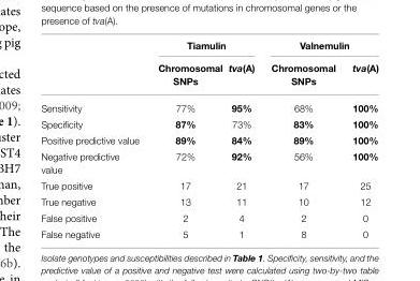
<table><thead><tr><td rowspan="2"></td><td colspan="2">Tiamulin</td><td colspan="2">Valnemulin</td></tr><tr><td>Chromosomal SNPs</td><td>tva(A)</td><td>Chromosomal SNPs</td><td>tva(A)</td></tr></thead><tbody><tr><td>Sensitivity</td><td>77%</td><td>95%</td><td>68%</td><td>100%</td></tr><tr><td>Specificity</td><td>87%</td><td>73%</td><td>83%</td><td>100%</td></tr><tr><td>Positive predictive value</td><td>89%</td><td>84%</td><td>89%</td><td>100%</td></tr><tr><td>Negative predictive value</td><td>72%</td><td>92%</td><td>56%</td><td>100%</td></tr><tr><td>True positive</td><td>17</td><td>21</td><td>17</td><td>25</td></tr><tr><td>True negative</td><td>13</td><td>11</td><td>10</td><td>12</td></tr><tr><td>False positive</td><td>2</td><td>4</td><td>2</td><td>0</td></tr><tr><td>False negative</td><td>5</td><td>1</td><td>8</td><td>0</td></tr></tbody></table>